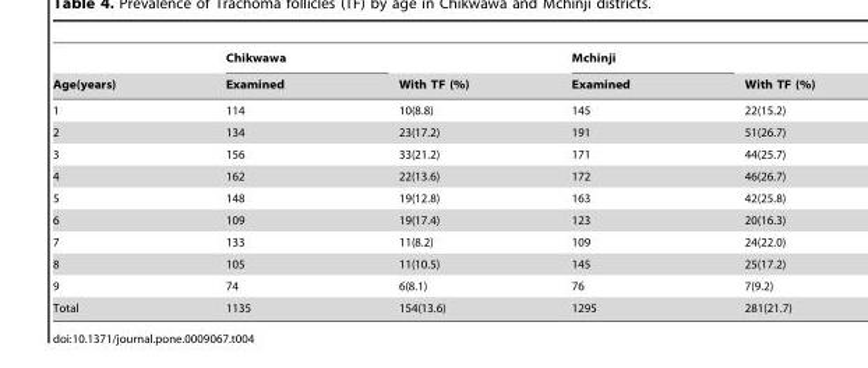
<table><thead><tr><td rowspan="2">Age(years)</td><td rowspan="2">Chikwawa Examined</td><td rowspan="2">With TF (%)</td><td rowspan="2">Mchinji Examined</td><td rowspan="2">With TF (%)</td></tr><tr></tr></thead><tbody><tr><td>1</td><td>114</td><td>10(8.8)</td><td>145</td><td>22(15.2)</td></tr><tr><td>2</td><td>134</td><td>23(17.2)</td><td>191</td><td>51(26.7)</td></tr><tr><td>3</td><td>156</td><td>33(21.2)</td><td>171</td><td>44(25.7)</td></tr><tr><td>4</td><td>162</td><td>22(13.6)</td><td>172</td><td>46(26.7)</td></tr><tr><td>5</td><td>148</td><td>19(12.8)</td><td>163</td><td>42(25.8)</td></tr><tr><td>6</td><td>109</td><td>19(17.4)</td><td>123</td><td>20(16.3)</td></tr><tr><td>7</td><td>133</td><td>11(8.2)</td><td>109</td><td>24(22.0)</td></tr><tr><td>8</td><td>105</td><td>11(10.5)</td><td>145</td><td>25(17.2)</td></tr><tr><td>9</td><td>74</td><td>6(8.1)</td><td>76</td><td>7(9.2)</td></tr><tr><td>Total</td><td>1135</td><td>154(13.6)</td><td>1295</td><td>281(21.7)</td></tr></tbody></table>